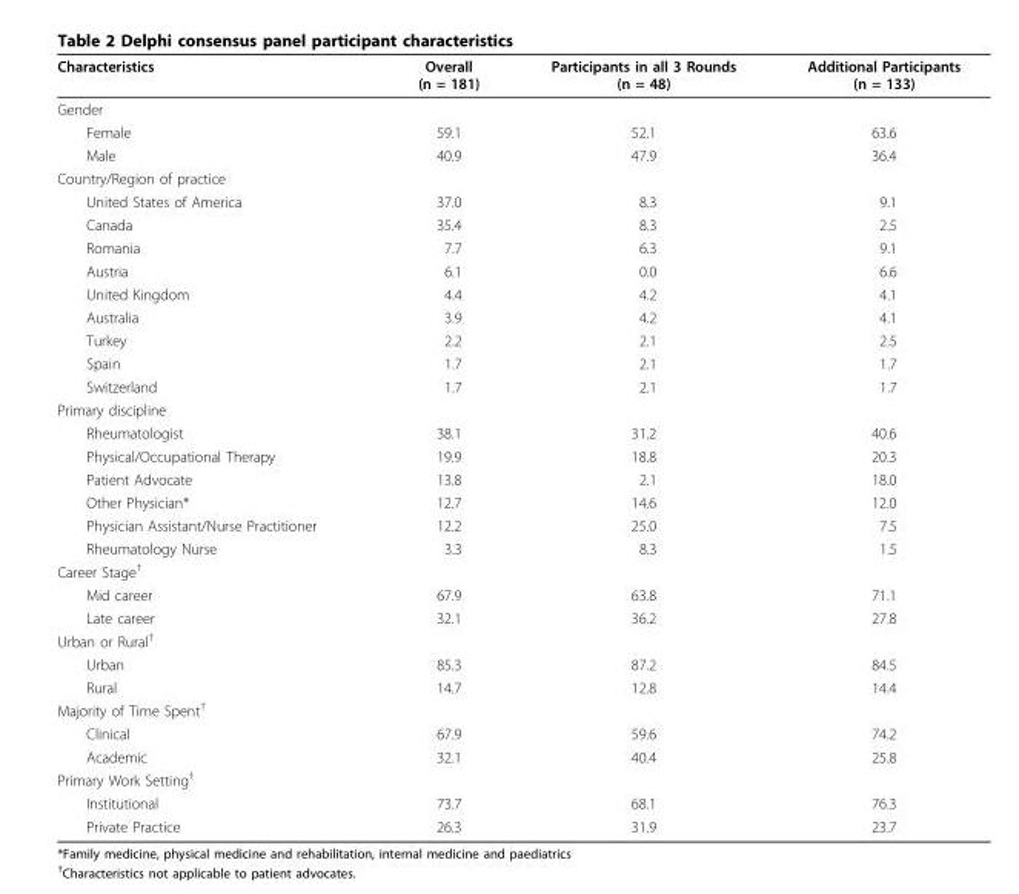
<table><thead><tr><td>Characteristics</td><td>Overall (n = 181)</td><td>Participants in all 3 Rounds (n = 48)</td><td>Additional Participants (n = 133)</td></tr></thead><tbody><tr><td colspan="4">Gender</td></tr><tr><td>Female</td><td>59.1</td><td>52.1</td><td>63.6</td></tr><tr><td>Male</td><td>40.9</td><td>47.9</td><td>36.4</td></tr><tr><td colspan="4">Country/Region of practice</td></tr><tr><td>United States of America</td><td>37.0</td><td>8.3</td><td>9.1</td></tr><tr><td>Canada</td><td>35.4</td><td>8.3</td><td>2.5</td></tr><tr><td>Romania</td><td>7.7</td><td>6.3</td><td>9.1</td></tr><tr><td>Austria</td><td>6.1</td><td>0.0</td><td>6.6</td></tr><tr><td>United Kingdom</td><td>4.4</td><td>4.2</td><td>4.1</td></tr><tr><td>Australia</td><td>3.9</td><td>4.2</td><td>4.1</td></tr><tr><td>Turkey</td><td>2.2</td><td>2.1</td><td>2.5</td></tr><tr><td>Spain</td><td>1.7</td><td>2.1</td><td>1.7</td></tr><tr><td>Switzerland</td><td>1.7</td><td>2.1</td><td>1.7</td></tr><tr><td colspan="4">Primary discipline</td></tr><tr><td>Rheumatologist</td><td>38.1</td><td>31.2</td><td>40.6</td></tr><tr><td>Physical/Occupational Therapy</td><td>19.9</td><td>18.8</td><td>20.3</td></tr><tr><td>Patient Advocate</td><td>13.8</td><td>2.1</td><td>18.0</td></tr><tr><td>Other Physician*</td><td>12.7</td><td>14.6</td><td>12.0</td></tr><tr><td>Physician Assistant/Nurse Practitioner</td><td>12.2</td><td>25.0</td><td>7.5</td></tr><tr><td>Rheumatology Nurse</td><td>3.3</td><td>8.3</td><td>1.5</td></tr><tr><td colspan="4">Career Stage<sup>†</sup></td></tr><tr><td>Mid career</td><td>67.9</td><td>63.8</td><td>71.1</td></tr><tr><td>Late career</td><td>32.1</td><td>36.2</td><td>27.8</td></tr><tr><td colspan="4">Urban or Rural<sup>†</sup></td></tr><tr><td>Urban</td><td>85.3</td><td>87.2</td><td>84.5</td></tr><tr><td>Rural</td><td>14.7</td><td>12.8</td><td>14.4</td></tr><tr><td colspan="4">Majority of Time Spent<sup>†</sup></td></tr><tr><td>Clinical</td><td>67.9</td><td>59.6</td><td>74.2</td></tr><tr><td>Academic</td><td>32.1</td><td>40.4</td><td>25.8</td></tr><tr><td colspan="4">Primary Work Setting<sup>†</sup></td></tr><tr><td>Institutional</td><td>73.7</td><td>68.1</td><td>76.3</td></tr><tr><td>Private Practice</td><td>26.3</td><td>31.9</td><td>23.7</td></tr></tbody></table>